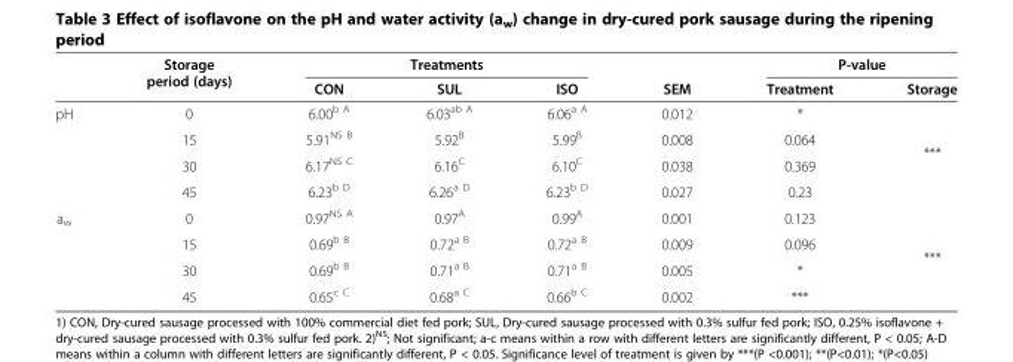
<table><thead><tr><td rowspan="2"></td><td rowspan="2">Storage period (days)</td><td colspan="3">Treatments</td><td rowspan="2">SEM</td><td colspan="2">P-value</td></tr><tr><td>CON</td><td>SUL</td><td>ISO</td><td>Treatment</td><td>Storage</td></tr></thead><tbody><tr><td rowspan="4">pH</td><td>0</td><td>6.00<sup>b A</sup></td><td>6.03<sup>ab A</sup></td><td>6.06<sup>a A</sup></td><td>0.012</td><td>*</td><td rowspan="4">***</td></tr><tr><td>15</td><td>5.91<sup>NS B</sup></td><td>5.92<sup>B</sup></td><td>5.99<sup>B</sup></td><td>0.008</td><td>0.064</td></tr><tr><td>30</td><td>6.17<sup>NS C</sup></td><td>6.16<sup>C</sup></td><td>6.10<sup>C</sup></td><td>0.038</td><td>0.369</td></tr><tr><td>45</td><td>6.23<sup>b D</sup></td><td>6.26<sup>a D</sup></td><td>6.23<sup>b D</sup></td><td>0.027</td><td>0.23</td></tr><tr><td rowspan="4">a<sub>w</sub></td><td>0</td><td>0.97<sup>NS A</sup></td><td>0.97<sup>A</sup></td><td>0.99<sup>A</sup></td><td>0.001</td><td>0.123</td><td rowspan="4">***</td></tr><tr><td>15</td><td>0.69<sup>b B</sup></td><td>0.72<sup>a B</sup></td><td>0.72<sup>a B</sup></td><td>0.009</td><td>0.096</td></tr><tr><td>30</td><td>0.69<sup>b B</sup></td><td>0.71<sup>a B</sup></td><td>0.71<sup>a B</sup></td><td>0.005</td><td>*</td></tr><tr><td>45</td><td>0.65<sup>c C</sup></td><td>0.68<sup>a C</sup></td><td>0.66<sup>b C</sup></td><td>0.002</td><td>***</td></tr></tbody></table>